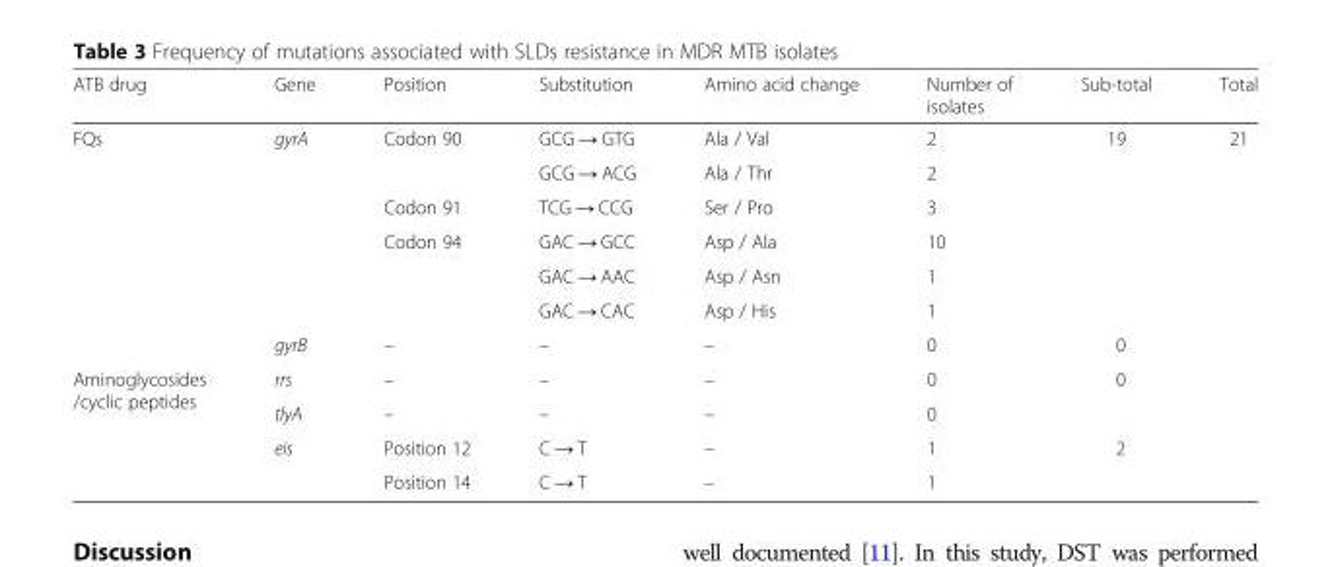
<table><thead><tr><td>ATB drug</td><td>Gene</td><td>Position</td><td>Substitution</td><td>Amino acid change</td><td>Number of isolates</td><td>Sub-total</td><td>Total</td></tr></thead><tbody><tr><td rowspan="7">FQs</td><td rowspan="6">gyrA</td><td rowspan="2">Codon 90</td><td>GCG → GTG</td><td>Ala / Val</td><td>2</td><td rowspan="6">19</td><td rowspan="11">21</td></tr><tr><td>GCG → ACG</td><td>Ala / Thr</td><td>2</td></tr><tr><td>Codon 91</td><td>TCG → CCG</td><td>Ser / Pro</td><td>3</td></tr><tr><td rowspan="3">Codon 94</td><td>GAC → GCC</td><td>Asp / Ala</td><td>10</td></tr><tr><td>GAC → AAC</td><td>Asp / Asn</td><td>1</td></tr><tr><td>GAC → CAC</td><td>Asp / His</td><td>1</td></tr><tr><td>gyrB</td><td>–</td><td>–</td><td>–</td><td>0</td><td>0</td></tr><tr><td rowspan="4">Aminoglycosides /cyclic peptides</td><td>rrs</td><td>–</td><td>–</td><td>–</td><td>0</td><td rowspan="2">0</td></tr><tr><td>tlyA</td><td>–</td><td>–</td><td>–</td><td>0</td></tr><tr><td rowspan="2">eis</td><td>Position 12</td><td>C → T</td><td>–</td><td>1</td><td rowspan="2">2</td></tr><tr><td>Position 14</td><td>C → T</td><td>–</td><td>1</td></tr></tbody></table>